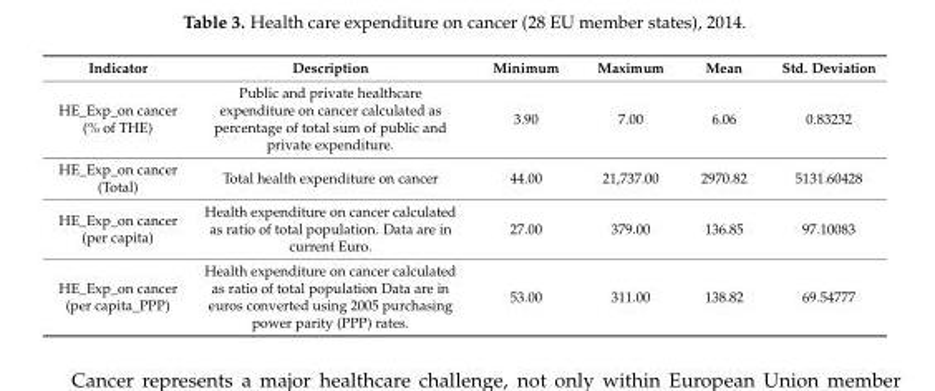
<table><thead><tr><td>Indicator</td><td>Description</td><td>Minimum</td><td>Maximum</td><td>Mean</td><td>Std. Deviation</td></tr></thead><tbody><tr><td>HE_Exp_on cancer (% of THE)</td><td>Public and private healthcare expenditure on cancer calculated as percentage of total sum of public and private expenditure.</td><td>3.90</td><td>7.00</td><td>6.06</td><td>0.83232</td></tr><tr><td>HE_Exp_on cancer (Total)</td><td>Total health expenditure on cancer</td><td>44.00</td><td>21,737.00</td><td>2970.82</td><td>5131.60428</td></tr><tr><td>HE_Exp_on cancer (per capita)</td><td>Health expenditure on cancer calculated as ratio of total population. Data are in current Euro.</td><td>27.00</td><td>379.00</td><td>136.85</td><td>97.10083</td></tr><tr><td>HE_Exp_on cancer (per capita_PPP)</td><td>Health expenditure on cancer calculated as ratio of total population Data are in euros converted using 2005 purchasing power parity (PPP) rates.</td><td>53.00</td><td>311.00</td><td>138.82</td><td>69.54777</td></tr></tbody></table>